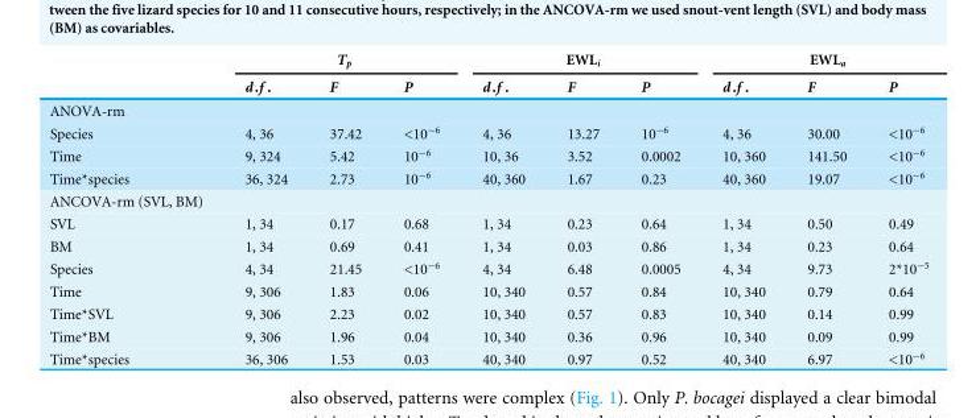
<table><thead><tr><td rowspan="2"></td><td colspan="3">T<sub>p</sub></td><td colspan="3">EWL<sub>i</sub></td><td colspan="3">EWL<sub>a</sub></td></tr><tr><td>d.f .</td><td>F</td><td>P</td><td>d.f .</td><td>F</td><td>P</td><td>d.f .</td><td>F</td><td>P</td></tr></thead><tbody><tr><td colspan="10">ANOVA-rm</td></tr><tr><td>Species</td><td>4, 36</td><td>37.42</td><td>&lt;10<sup>−6</sup></td><td>4, 36</td><td>13.27</td><td>10<sup>−6</sup></td><td>4, 36</td><td>30.00</td><td>&lt;10<sup>−6</sup></td></tr><tr><td>Time</td><td>9, 324</td><td>5.42</td><td>10<sup>−6</sup></td><td>10, 36</td><td>3.52</td><td>0.0002</td><td>10, 360</td><td>141.50</td><td>&lt;10<sup>−6</sup></td></tr><tr><td>Time*species</td><td>36, 324</td><td>2.73</td><td>10<sup>−6</sup></td><td>40, 360</td><td>1.67</td><td>0.23</td><td>40, 360</td><td>19.07</td><td>&lt;10<sup>−6</sup></td></tr><tr><td colspan="10">ANCOVA-rm (SVL, BM)</td></tr><tr><td>SVL</td><td>1, 34</td><td>0.17</td><td>0.68</td><td>1, 34</td><td>0.23</td><td>0.64</td><td>1, 34</td><td>0.50</td><td>0.49</td></tr><tr><td>BM</td><td>1, 34</td><td>0.69</td><td>0.41</td><td>1, 34</td><td>0.03</td><td>0.86</td><td>1, 34</td><td>0.23</td><td>0.64</td></tr><tr><td>Species</td><td>4, 34</td><td>21.45</td><td>&lt;10<sup>−6</sup></td><td>4, 34</td><td>6.48</td><td>0.0005</td><td>4, 34</td><td>9.73</td><td>2*10<sup>−5</sup></td></tr><tr><td>Time</td><td>9, 306</td><td>1.83</td><td>0.06</td><td>10, 340</td><td>0.57</td><td>0.84</td><td>10, 340</td><td>0.79</td><td>0.64</td></tr><tr><td>Time*SVL</td><td>9, 306</td><td>2.23</td><td>0.02</td><td>10, 340</td><td>0.57</td><td>0.83</td><td>10, 340</td><td>0.14</td><td>0.99</td></tr><tr><td>Time*BM</td><td>9, 306</td><td>1.96</td><td>0.04</td><td>10, 340</td><td>0.36</td><td>0.96</td><td>10, 340</td><td>0.09</td><td>0.99</td></tr><tr><td>Time*species</td><td>36, 306</td><td>1.53</td><td>0.03</td><td>40, 340</td><td>0.97</td><td>0.52</td><td>40, 340</td><td>6.97</td><td>&lt;10<sup>−6</sup></td></tr></tbody></table>